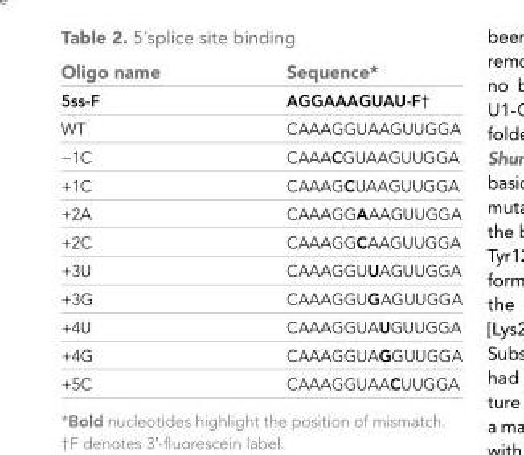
<table><thead><tr><td>Oligo name</td><td>Sequence*</td></tr></thead><tbody><tr><td>5ss-F</td><td>AGGAAAGUAU-F†</td></tr><tr><td>WT</td><td>CAAAGGUAAGUUGGA</td></tr><tr><td>−1C</td><td>CAAACGUAAGUUGGA</td></tr><tr><td>+1C</td><td>CAAAGCUAAGUUGGA</td></tr><tr><td>+2A</td><td>CAAAGGAAAGUUGGA</td></tr><tr><td>+2C</td><td>CAAAGGCAAGUUGGA</td></tr><tr><td>+3U</td><td>CAAAGGUUAGUUGGA</td></tr><tr><td>+3G</td><td>CAAAGGUGAGUUGGA</td></tr><tr><td>+4U</td><td>CAAAGGUAUGUUGGA</td></tr><tr><td>+4G</td><td>CAAAGGUAGGUUGGA</td></tr><tr><td>+5C</td><td>CAAAGGUAACUUGGA</td></tr></tbody></table>